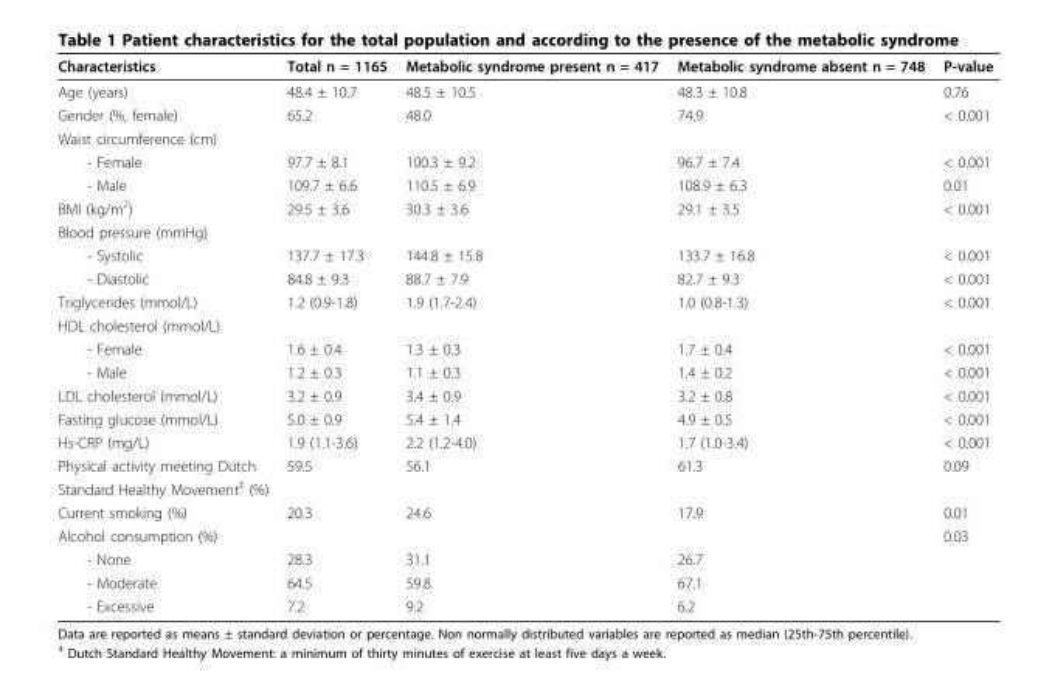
<table><thead><tr><td>Characteristics</td><td>Total n = 1165</td><td>Metabolic syndrome present n = 417</td><td>Metabolic syndrome absent n = 748</td><td>P-value</td></tr></thead><tbody><tr><td>Age (years)</td><td>48.4 ± 10.7</td><td>48.5 ± 10.5</td><td>48.3 ± 10.8</td><td>0.76</td></tr><tr><td>Gender (%, female)</td><td>65.2</td><td>48.0</td><td>74.9</td><td>&lt; 0.001</td></tr><tr><td colspan="5">Waist circumference (cm)</td></tr><tr><td>- Female</td><td>97.7 ± 8.1</td><td>100.3 ± 9.2</td><td>96.7 ± 7.4</td><td>&lt; 0.001</td></tr><tr><td>- Male</td><td>109.7 ± 6.6</td><td>110.5 ± 6.9</td><td>108.9 ± 6.3</td><td>0.01</td></tr><tr><td>BMI (kg/m<sup>2</sup>)</td><td>29.5 ± 3.6</td><td>30.3 ± 3.6</td><td>29.1 ± 3.5</td><td>&lt; 0.001</td></tr><tr><td colspan="5">Blood pressure (mmHg)</td></tr><tr><td>- Systolic</td><td>137.7 ± 17.3</td><td>144.8 ± 15.8</td><td>133.7 ± 16.8</td><td>&lt; 0.001</td></tr><tr><td>- Diastolic</td><td>84.8 ± 9.3</td><td>88.7 ± 7.9</td><td>82.7 ± 9.3</td><td>&lt; 0.001</td></tr><tr><td>Triglycerides (mmol/L)</td><td>1.2 (0.9-1.8)</td><td>1.9 (1.7-2.4)</td><td>1.0 (0.8-1.3)</td><td>&lt; 0.001</td></tr><tr><td colspan="5">HDL cholesterol (mmol/L)</td></tr><tr><td>- Female</td><td>1.6 ± 0.4</td><td>1.3 ± 0.3</td><td>1.7 ± 0.4</td><td>&lt; 0.001</td></tr><tr><td>- Male</td><td>1.2 ± 0.3</td><td>1.1 ± 0.3</td><td>1.4 ± 0.2</td><td>&lt; 0.001</td></tr><tr><td>LDL cholesterol (mmol/L)</td><td>3.2 ± 0.9</td><td>3.4 ± 0.9</td><td>3.2 ± 0.8</td><td>&lt; 0.001</td></tr><tr><td>Fasting glucose (mmol/L)</td><td>5.0 ± 0.9</td><td>5.4 ± 1.4</td><td>4.9 ± 0.5</td><td>&lt; 0.001</td></tr><tr><td>Hs-CRP (mg/L)</td><td>1.9 (1.1-3.6)</td><td>2.2 (1.2-4.0)</td><td>1.7 (1.0-3.4)</td><td>&lt; 0.001</td></tr><tr><td>Physical activity meeting Dutch</td><td>59.5</td><td>56.1</td><td>61.3</td><td>0.09</td></tr><tr><td colspan="5">Standard Healthy Movement<sup>‡</sup> (%)</td></tr><tr><td>Current smoking (%)</td><td>20.3</td><td>24.6</td><td>17.9</td><td>0.01</td></tr><tr><td>Alcohol consumption (%)</td><td></td><td></td><td></td><td>0.03</td></tr><tr><td>- None</td><td>28.3</td><td>31.1</td><td>26.7</td><td></td></tr><tr><td>- Moderate</td><td>64.5</td><td>59.8</td><td>67.1</td><td></td></tr><tr><td>- Excessive</td><td>7.2</td><td>9.2</td><td>6.2</td><td></td></tr></tbody></table>